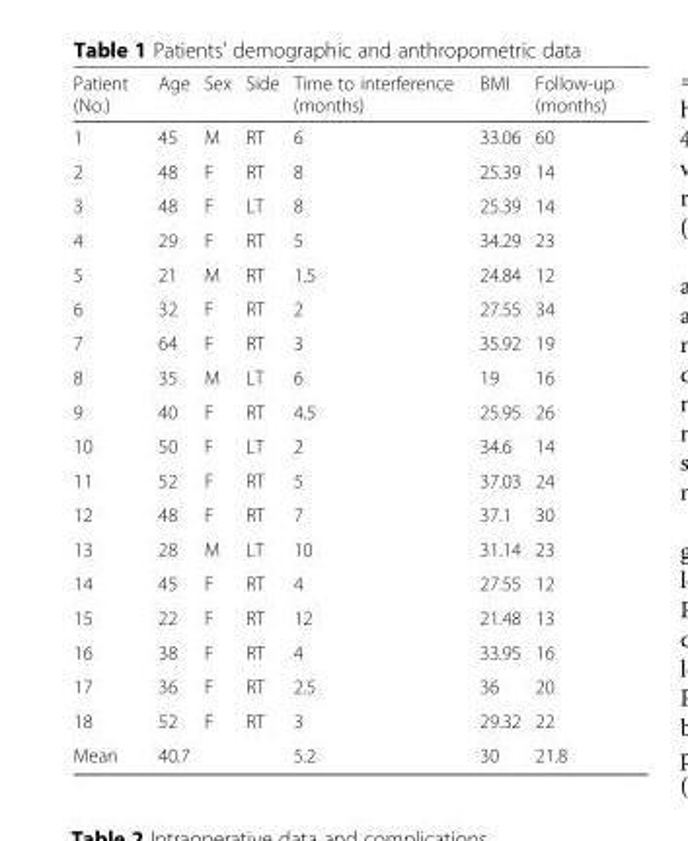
<table><thead><tr><td>Patient (No.)</td><td>Age</td><td>Sex</td><td>Side</td><td>Time to interference (months)</td><td>BMI</td><td>Follow-up (months)</td></tr></thead><tbody><tr><td>1</td><td>45</td><td>M</td><td>RT</td><td>6</td><td>33.06</td><td>60</td></tr><tr><td>2</td><td>48</td><td>F</td><td>RT</td><td>8</td><td>25.39</td><td>14</td></tr><tr><td>3</td><td>48</td><td>F</td><td>LT</td><td>8</td><td>25.39</td><td>14</td></tr><tr><td>4</td><td>29</td><td>F</td><td>RT</td><td>5</td><td>34.29</td><td>23</td></tr><tr><td>5</td><td>21</td><td>M</td><td>RT</td><td>1.5</td><td>24.84</td><td>12</td></tr><tr><td>6</td><td>32</td><td>F</td><td>RT</td><td>2</td><td>27.55</td><td>34</td></tr><tr><td>7</td><td>64</td><td>F</td><td>RT</td><td>3</td><td>35.92</td><td>19</td></tr><tr><td>8</td><td>35</td><td>M</td><td>LT</td><td>6</td><td>19</td><td>16</td></tr><tr><td>9</td><td>40</td><td>F</td><td>RT</td><td>4.5</td><td>25.95</td><td>26</td></tr><tr><td>10</td><td>50</td><td>F</td><td>LT</td><td>2</td><td>34.6</td><td>14</td></tr><tr><td>11</td><td>52</td><td>F</td><td>RT</td><td>5</td><td>37.03</td><td>24</td></tr><tr><td>12</td><td>48</td><td>F</td><td>RT</td><td>7</td><td>37.1</td><td>30</td></tr><tr><td>13</td><td>28</td><td>M</td><td>LT</td><td>10</td><td>31.14</td><td>23</td></tr><tr><td>14</td><td>45</td><td>F</td><td>RT</td><td>4</td><td>27.55</td><td>12</td></tr><tr><td>15</td><td>22</td><td>F</td><td>RT</td><td>12</td><td>21.48</td><td>13</td></tr><tr><td>16</td><td>38</td><td>F</td><td>RT</td><td>4</td><td>33.95</td><td>16</td></tr><tr><td>17</td><td>36</td><td>F</td><td>RT</td><td>2.5</td><td>36</td><td>20</td></tr><tr><td>18</td><td>52</td><td>F</td><td>RT</td><td>3</td><td>29.32</td><td>22</td></tr><tr><td>Mean</td><td>40.7</td><td></td><td></td><td>5.2</td><td>30</td><td>21.8</td></tr></tbody></table>